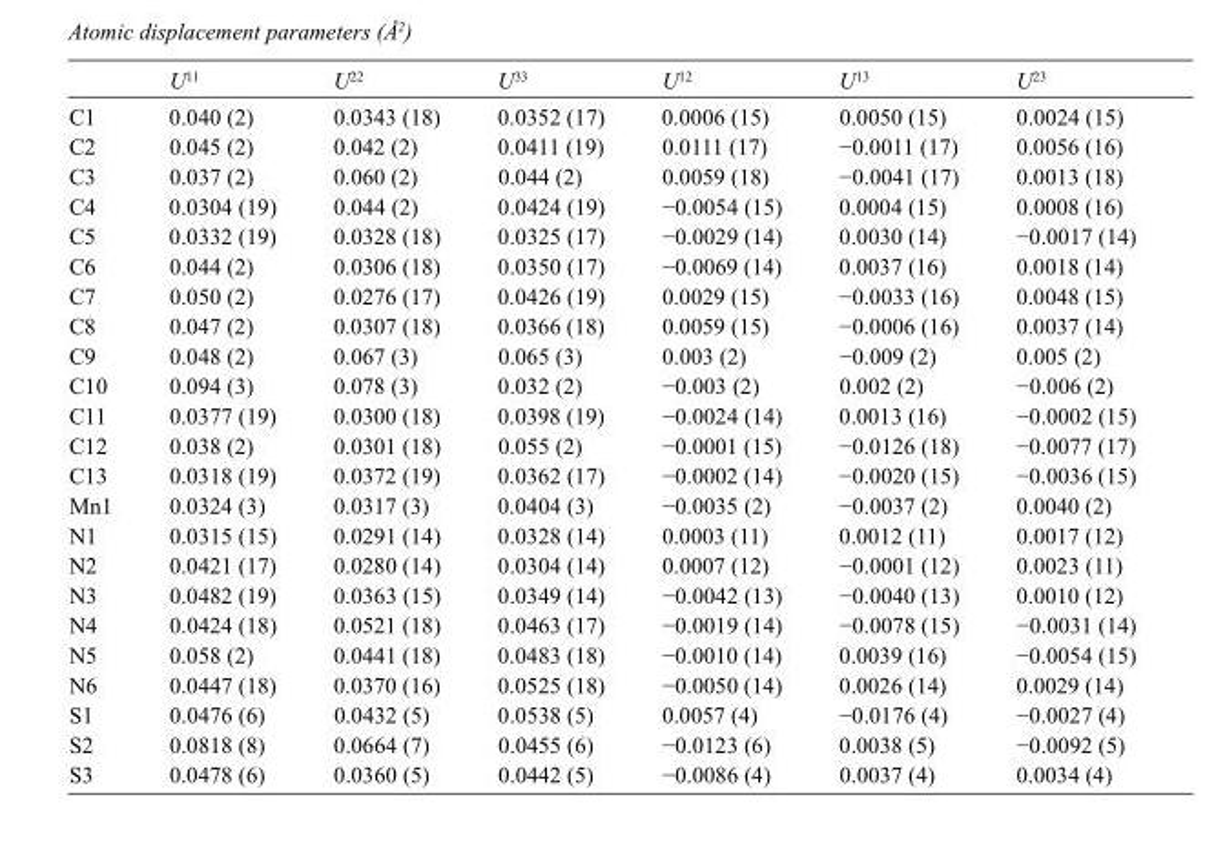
<table><thead><tr><td></td><td>U<sup>11</sup></td><td>U<sup>22</sup></td><td>U<sup>33</sup></td><td>U<sup>12</sup></td><td>U<sup>13</sup></td><td>U<sup>23</sup></td></tr></thead><tbody><tr><td>C1</td><td>0.040 (2)</td><td>0.0343 (18)</td><td>0.0352 (17)</td><td>0.0006 (15)</td><td>0.0050 (15)</td><td>0.0024 (15)</td></tr><tr><td>C2</td><td>0.045 (2)</td><td>0.042 (2)</td><td>0.0411 (19)</td><td>0.0111 (17)</td><td>−0.0011 (17)</td><td>0.0056 (16)</td></tr><tr><td>C3</td><td>0.037 (2)</td><td>0.060 (2)</td><td>0.044 (2)</td><td>0.0059 (18)</td><td>−0.0041 (17)</td><td>0.0013 (18)</td></tr><tr><td>C4</td><td>0.0304 (19)</td><td>0.044 (2)</td><td>0.0424 (19)</td><td>−0.0054 (15)</td><td>0.0004 (15)</td><td>0.0008 (16)</td></tr><tr><td>C5</td><td>0.0332 (19)</td><td>0.0328 (18)</td><td>0.0325 (17)</td><td>−0.0029 (14)</td><td>0.0030 (14)</td><td>−0.0017 (14)</td></tr><tr><td>C6</td><td>0.044 (2)</td><td>0.0306 (18)</td><td>0.0350 (17)</td><td>−0.0069 (14)</td><td>0.0037 (16)</td><td>0.0018 (14)</td></tr><tr><td>C7</td><td>0.050 (2)</td><td>0.0276 (17)</td><td>0.0426 (19)</td><td>0.0029 (15)</td><td>−0.0033 (16)</td><td>0.0048 (15)</td></tr><tr><td>C8</td><td>0.047 (2)</td><td>0.0307 (18)</td><td>0.0366 (18)</td><td>0.0059 (15)</td><td>−0.0006 (16)</td><td>0.0037 (14)</td></tr><tr><td>C9</td><td>0.048 (2)</td><td>0.067 (3)</td><td>0.065 (3)</td><td>0.003 (2)</td><td>−0.009 (2)</td><td>0.005 (2)</td></tr><tr><td>C10</td><td>0.094 (3)</td><td>0.078 (3)</td><td>0.032 (2)</td><td>−0.003 (2)</td><td>0.002 (2)</td><td>−0.006 (2)</td></tr><tr><td>C11</td><td>0.0377 (19)</td><td>0.0300 (18)</td><td>0.0398 (19)</td><td>−0.0024 (14)</td><td>0.0013 (16)</td><td>−0.0002 (15)</td></tr><tr><td>C12</td><td>0.038 (2)</td><td>0.0301 (18)</td><td>0.055 (2)</td><td>−0.0001 (15)</td><td>−0.0126 (18)</td><td>−0.0077 (17)</td></tr><tr><td>C13</td><td>0.0318 (19)</td><td>0.0372 (19)</td><td>0.0362 (17)</td><td>−0.0002 (14)</td><td>−0.0020 (15)</td><td>−0.0036 (15)</td></tr><tr><td>Mn1</td><td>0.0324 (3)</td><td>0.0317 (3)</td><td>0.0404 (3)</td><td>−0.0035 (2)</td><td>−0.0037 (2)</td><td>0.0040 (2)</td></tr><tr><td>N1</td><td>0.0315 (15)</td><td>0.0291 (14)</td><td>0.0328 (14)</td><td>0.0003 (11)</td><td>0.0012 (11)</td><td>0.0017 (12)</td></tr><tr><td>N2</td><td>0.0421 (17)</td><td>0.0280 (14)</td><td>0.0304 (14)</td><td>0.0007 (12)</td><td>−0.0001 (12)</td><td>0.0023 (11)</td></tr><tr><td>N3</td><td>0.0482 (19)</td><td>0.0363 (15)</td><td>0.0349 (14)</td><td>−0.0042 (13)</td><td>−0.0040 (13)</td><td>0.0010 (12)</td></tr><tr><td>N4</td><td>0.0424 (18)</td><td>0.0521 (18)</td><td>0.0463 (17)</td><td>−0.0019 (14)</td><td>−0.0078 (15)</td><td>−0.0031 (14)</td></tr><tr><td>N5</td><td>0.058 (2)</td><td>0.0441 (18)</td><td>0.0483 (18)</td><td>−0.0010 (14)</td><td>0.0039 (16)</td><td>−0.0054 (15)</td></tr><tr><td>N6</td><td>0.0447 (18)</td><td>0.0370 (16)</td><td>0.0525 (18)</td><td>−0.0050 (14)</td><td>0.0026 (14)</td><td>0.0029 (14)</td></tr><tr><td>S1</td><td>0.0476 (6)</td><td>0.0432 (5)</td><td>0.0538 (5)</td><td>0.0057 (4)</td><td>−0.0176 (4)</td><td>−0.0027 (4)</td></tr><tr><td>S2</td><td>0.0818 (8)</td><td>0.0664 (7)</td><td>0.0455 (6)</td><td>−0.0123 (6)</td><td>0.0038 (5)</td><td>−0.0092 (5)</td></tr><tr><td>S3</td><td>0.0478 (6)</td><td>0.0360 (5)</td><td>0.0442 (5)</td><td>−0.0086 (4)</td><td>0.0037 (4)</td><td>0.0034 (4)</td></tr></tbody></table>